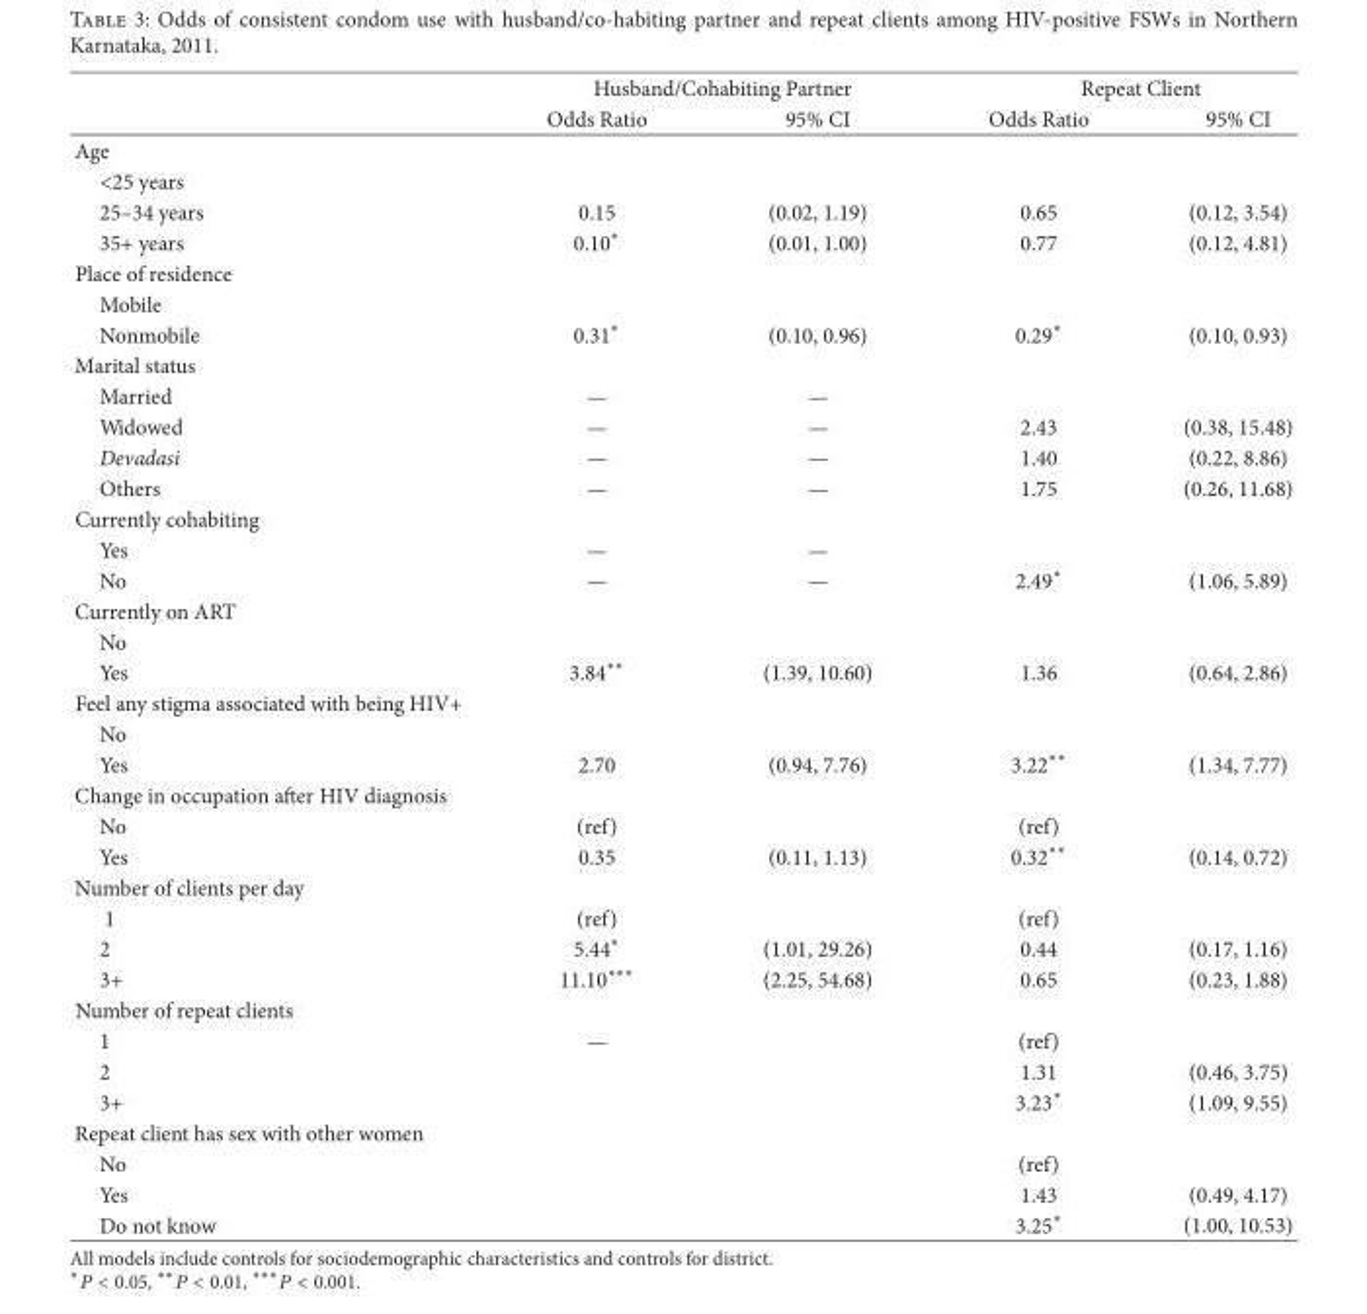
<table><thead><tr><td rowspan="2"></td><td colspan="2">Husband/Cohabiting Partner</td><td colspan="2">Repeat Client</td></tr><tr><td>Odds Ratio</td><td>95% CI</td><td>Odds Ratio</td><td>95% CI</td></tr></thead><tbody><tr><td colspan="5">Age</td></tr><tr><td colspan="5">&lt;25 years</td></tr><tr><td>25–34 years</td><td>0.15</td><td>(0.02, 1.19)</td><td>0.65</td><td>(0.12, 3.54)</td></tr><tr><td>35+ years</td><td>0.10∗</td><td>(0.01, 1.00)</td><td>0.77</td><td>(0.12, 4.81)</td></tr><tr><td colspan="5">Place of residence</td></tr><tr><td colspan="5">Mobile</td></tr><tr><td>Nonmobile</td><td>0.31∗</td><td>(0.10, 0.96)</td><td>0.29∗</td><td>(0.10, 0.93)</td></tr><tr><td colspan="5">Marital status</td></tr><tr><td>Married</td><td>—</td><td>—</td><td></td><td></td></tr><tr><td>Widowed</td><td>—</td><td>—</td><td>2.43</td><td>(0.38, 15.48)</td></tr><tr><td>Devadasi</td><td>—</td><td>—</td><td>1.40</td><td>(0.22, 8.86)</td></tr><tr><td>Others</td><td>—</td><td>—</td><td>1.75</td><td>(0.26, 11.68)</td></tr><tr><td colspan="5">Currently cohabiting</td></tr><tr><td>Yes</td><td>—</td><td>—</td><td></td><td></td></tr><tr><td>No</td><td>—</td><td>—</td><td>2.49∗</td><td>(1.06, 5.89)</td></tr><tr><td colspan="5">Currently on ART</td></tr><tr><td colspan="5">No</td></tr><tr><td>Yes</td><td>3.84∗∗</td><td>(1.39, 10.60)</td><td>1.36</td><td>(0.64, 2.86)</td></tr><tr><td colspan="5">Feel any stigma associated with being HIV+</td></tr><tr><td colspan="5">No</td></tr><tr><td>Yes</td><td>2.70</td><td>(0.94, 7.76)</td><td>3.22∗∗</td><td>(1.34, 7.77)</td></tr><tr><td colspan="5">Change in occupation aer HIV diagnosis</td></tr><tr><td>No</td><td>(ref)</td><td></td><td>(ref)</td><td></td></tr><tr><td>Yes</td><td>0.35</td><td>(0.11, 1.13)</td><td>0.32∗∗</td><td>(0.14, 0.72)</td></tr><tr><td colspan="5">Number of clients per day</td></tr><tr><td>1</td><td>(ref)</td><td></td><td>(ref)</td><td></td></tr><tr><td>2</td><td>5.44∗</td><td>(1.01, 29.26)</td><td>0.44</td><td>(0.17, 1.16)</td></tr><tr><td>3+</td><td>11.10∗∗∗</td><td>(2.25, 54.68)</td><td>0.65</td><td>(0.23, 1.88)</td></tr><tr><td colspan="5">Number of repeat clients</td></tr><tr><td>1</td><td>—</td><td></td><td>(ref)</td><td></td></tr><tr><td>2</td><td></td><td></td><td>1.31</td><td>(0.46, 3.75)</td></tr><tr><td>3+</td><td></td><td></td><td>3.23∗</td><td>(1.09, 9.55)</td></tr><tr><td colspan="5">Repeat client has sex with other women</td></tr><tr><td>No</td><td></td><td></td><td>(ref)</td><td></td></tr><tr><td>Yes</td><td></td><td></td><td>1.43</td><td>(0.49, 4.17)</td></tr><tr><td>Do not know</td><td></td><td></td><td>3.25∗</td><td>(1.00, 10.53)</td></tr></tbody></table>